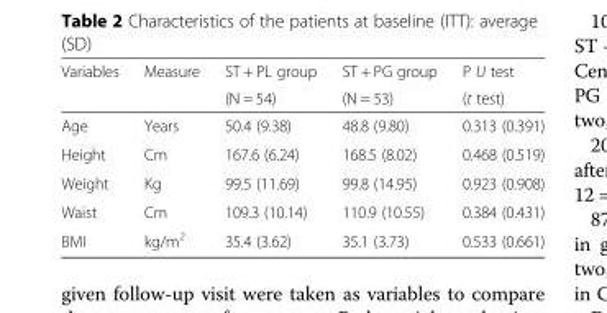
<table><thead><tr><td rowspan="2">Variables</td><td rowspan="2">Measure</td><td rowspan="2">ST + PL group (N = 54)</td><td rowspan="2">ST + PG group (N = 53)</td><td rowspan="2">P U test (t test)</td></tr><tr></tr></thead><tbody><tr><td>Age</td><td>Years</td><td>50.4 (9.38)</td><td>48.8 (9.80)</td><td>0.313 (0.391)</td></tr><tr><td>Height</td><td>Cm</td><td>167.6 (6.24)</td><td>168.5 (8.02)</td><td>0.468 (0.519)</td></tr><tr><td>Weight</td><td>Kg</td><td>99.5 (11.69)</td><td>99.8 (14.95)</td><td>0.923 (0.908)</td></tr><tr><td>Waist</td><td>Cm</td><td>109.3 (10.14)</td><td>110.9 (10.55)</td><td>0.384 (0.431)</td></tr><tr><td>BMI</td><td>kg/m<sup>2</sup></td><td>35.4 (3.62)</td><td>35.1 (3.73)</td><td>0.533 (0.661)</td></tr></tbody></table>